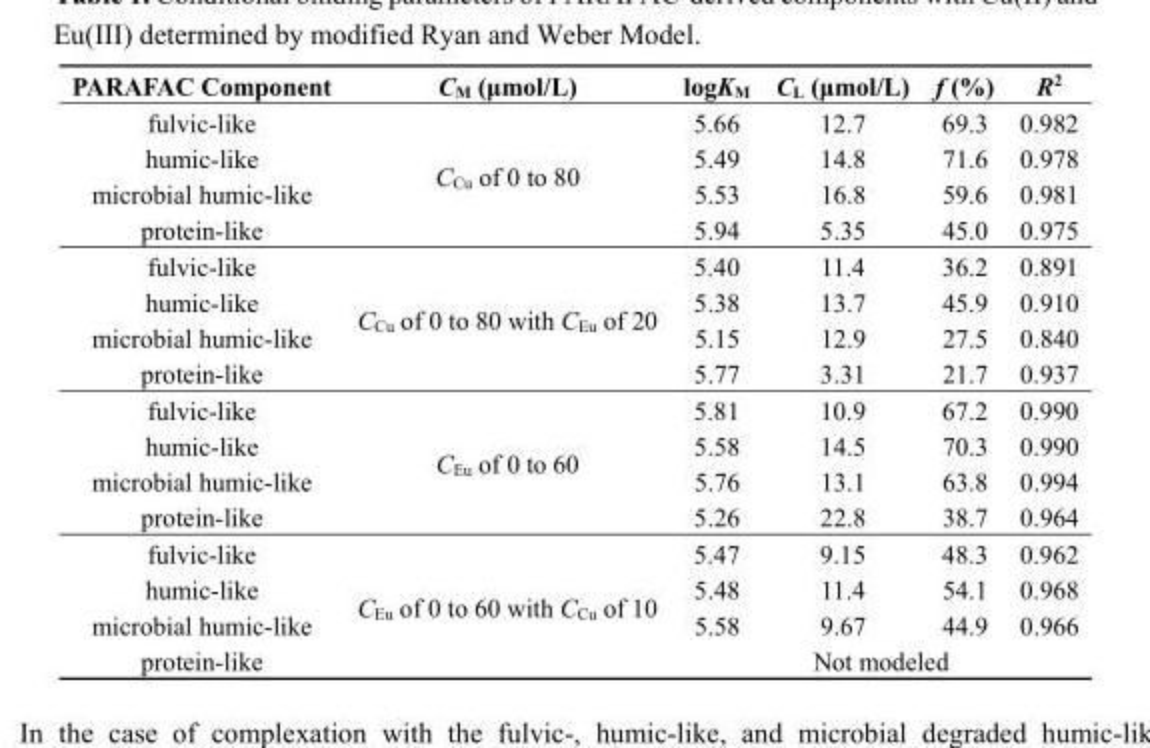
<table><thead><tr><td>PARAFAC Component</td><td>C<sub>M</sub> (μmol/L)</td><td>logK<sub>M</sub></td><td>C<sub>L</sub> (μmol/L)</td><td>f (%)</td><td>R<sup>2</sup></td></tr></thead><tbody><tr><td>fulvic-like</td><td rowspan="4">C<sub>Cu</sub> of 0 to 80</td><td>5.66</td><td>12.7</td><td>69.3</td><td>0.982</td></tr><tr><td>humic-like</td><td>5.49</td><td>14.8</td><td>71.6</td><td>0.978</td></tr><tr><td>microbial humic-like</td><td>5.53</td><td>16.8</td><td>59.6</td><td>0.981</td></tr><tr><td>protein-like</td><td>5.94</td><td>5.35</td><td>45.0</td><td>0.975</td></tr><tr><td>fulvic-like</td><td rowspan="4">C<sub>Cu</sub> of 0 to 80 with C<sub>Eu</sub> of 20</td><td>5.40</td><td>11.4</td><td>36.2</td><td>0.891</td></tr><tr><td>humic-like</td><td>5.38</td><td>13.7</td><td>45.9</td><td>0.910</td></tr><tr><td>microbial humic-like</td><td>5.15</td><td>12.9</td><td>27.5</td><td>0.840</td></tr><tr><td>protein-like</td><td>5.77</td><td>3.31</td><td>21.7</td><td>0.937</td></tr><tr><td>fulvic-like</td><td rowspan="4">C<sub>Eu</sub> of 0 to 60</td><td>5.81</td><td>10.9</td><td>67.2</td><td>0.990</td></tr><tr><td>humic-like</td><td>5.58</td><td>14.5</td><td>70.3</td><td>0.990</td></tr><tr><td>microbial humic-like</td><td>5.76</td><td>13.1</td><td>63.8</td><td>0.994</td></tr><tr><td>protein-like</td><td>5.26</td><td>22.8</td><td>38.7</td><td>0.964</td></tr><tr><td>fulvic-like</td><td rowspan="4">C<sub>Eu</sub> of 0 to 60 with C<sub>Cu</sub> of 10</td><td>5.47</td><td>9.15</td><td>48.3</td><td>0.962</td></tr><tr><td>humic-like</td><td>5.48</td><td>11.4</td><td>54.1</td><td>0.968</td></tr><tr><td>microbial humic-like</td><td>5.58</td><td>9.67</td><td>44.9</td><td>0.966</td></tr><tr><td>protein-like</td><td colspan="4">Not modeled</td></tr></tbody></table>